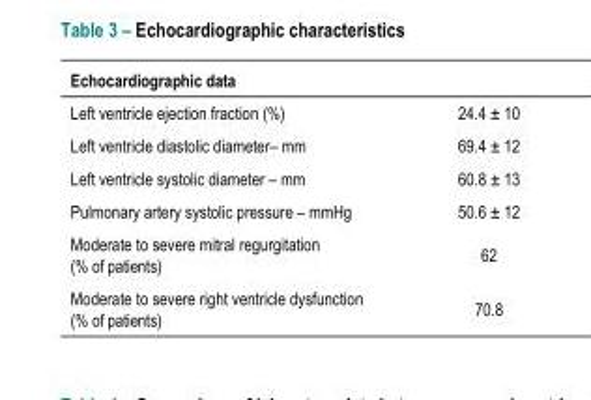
<table><thead><tr><td>Echocardiographic data</td><td></td></tr></thead><tbody><tr><td>Left ventricle ejection fraction (%)</td><td>24.4 ± 10</td></tr><tr><td>Left ventricle diastolic diameter– mm</td><td>69.4 ± 12</td></tr><tr><td>Left ventricle systolic diameter – mm</td><td>60.8 ± 13</td></tr><tr><td>Pulmonary artery systolic pressure – mmHg</td><td>50.6 ± 12</td></tr><tr><td>Moderate to severe mitral regurgitation (% of patients)</td><td>62</td></tr><tr><td>Moderate to severe right ventricle dysfunction (% of patients)</td><td>70.8</td></tr></tbody></table>